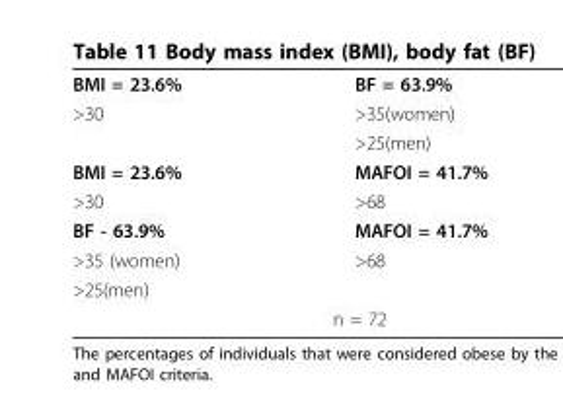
<table><tbody><tr><td>BMI = 23.6%</td><td>BF = 63.9%</td></tr><tr><td rowspan="2">&gt;30</td><td>&gt;35(women)</td></tr><tr><td>&gt;25(men)</td></tr><tr><td>BMI = 23.6%</td><td>MAFOI = 41.7%</td></tr><tr><td>&gt;30</td><td>&gt;68</td></tr><tr><td>BF - 63.9%</td><td>MAFOI = 41.7%</td></tr><tr><td>&gt;35 (women)</td><td>&gt;68</td></tr><tr><td colspan="2">&gt;25(men)</td></tr><tr><td colspan="2">n = 72</td></tr></tbody></table>